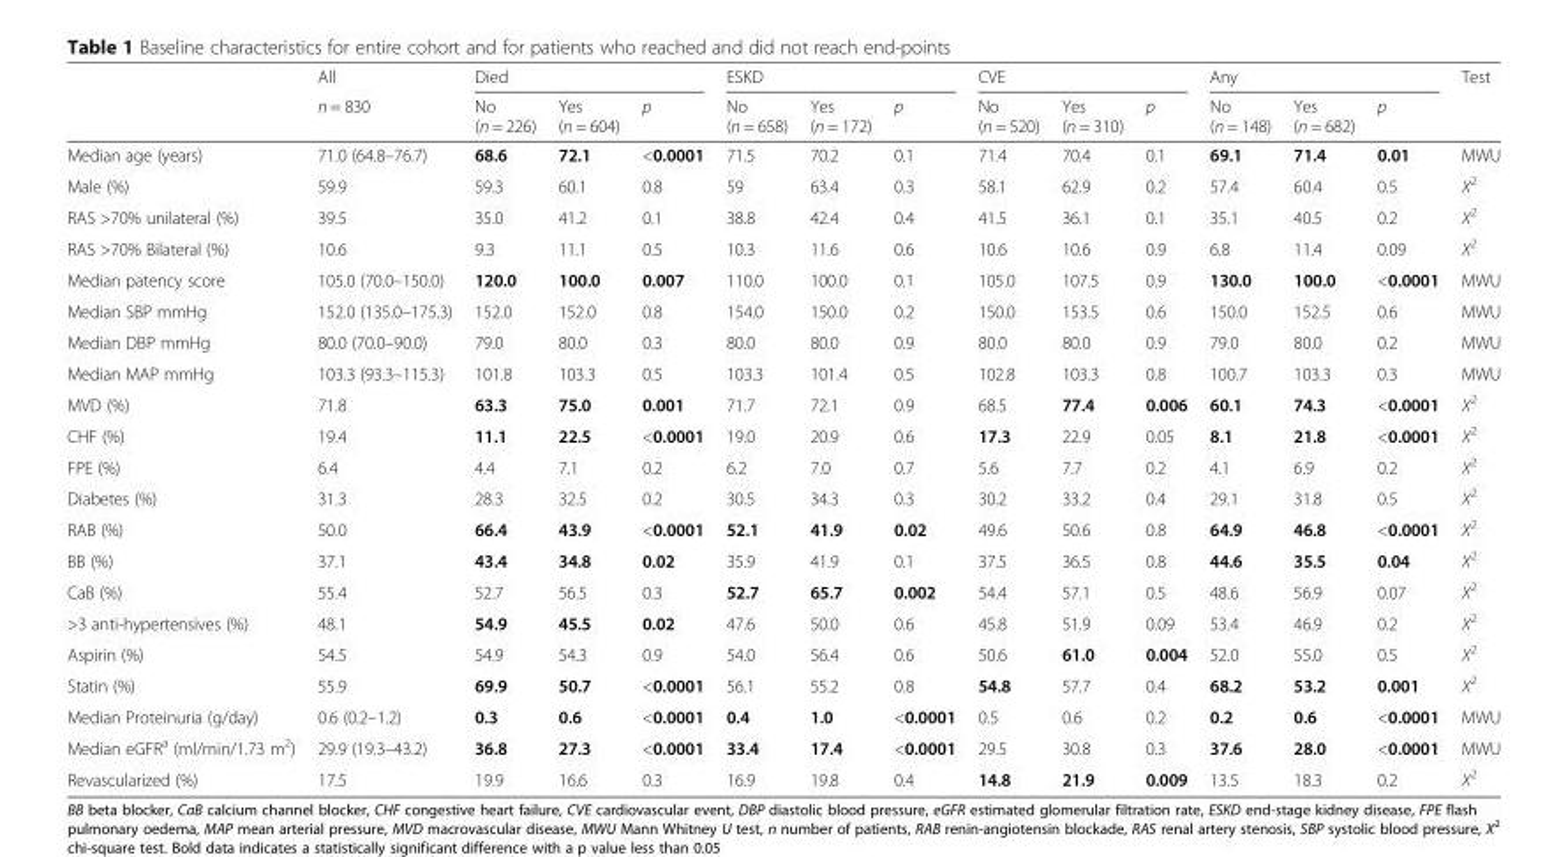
<table><thead><tr><td rowspan="2"></td><td rowspan="2">All n = 830</td><td colspan="3">Died</td><td colspan="3">ESKD</td><td colspan="3">CVE</td><td colspan="3">Any</td><td rowspan="2">Test</td></tr><tr><td>No (n = 226)</td><td>Yes (n = 604)</td><td>p</td><td>No (n = 658)</td><td>Yes (n = 172)</td><td>p</td><td>No (n = 520)</td><td>Yes (n = 310)</td><td>p</td><td>No (n = 148)</td><td>Yes (n = 682)</td><td>p</td></tr></thead><tbody><tr><td>Median age (years)</td><td>71.0 (64.8–76.7)</td><td>68.6</td><td>72.1</td><td>&lt;0.0001</td><td>71.5</td><td>70.2</td><td>0.1</td><td>71.4</td><td>70.4</td><td>0.1</td><td>69.1</td><td>71.4</td><td>0.01</td><td>MWU</td></tr><tr><td>Male (%)</td><td>59.9</td><td>59.3</td><td>60.1</td><td>0.8</td><td>59</td><td>63.4</td><td>0.3</td><td>58.1</td><td>62.9</td><td>0.2</td><td>57.4</td><td>60.4</td><td>0.5</td><td>X<sup>2</sup></td></tr><tr><td>RAS &gt;70% unilateral (%)</td><td>39.5</td><td>35.0</td><td>41.2</td><td>0.1</td><td>38.8</td><td>42.4</td><td>0.4</td><td>41.5</td><td>36.1</td><td>0.1</td><td>35.1</td><td>40.5</td><td>0.2</td><td>X<sup>2</sup></td></tr><tr><td>RAS &gt;70% Bilateral (%)</td><td>10.6</td><td>9.3</td><td>11.1</td><td>0.5</td><td>10.3</td><td>11.6</td><td>0.6</td><td>10.6</td><td>10.6</td><td>0.9</td><td>6.8</td><td>11.4</td><td>0.09</td><td>X<sup>2</sup></td></tr><tr><td>Median patency score</td><td>105.0 (70.0–150.0)</td><td>120.0</td><td>100.0</td><td>0.007</td><td>110.0</td><td>100.0</td><td>0.1</td><td>105.0</td><td>107.5</td><td>0.9</td><td>130.0</td><td>100.0</td><td>&lt;0.0001</td><td>MWU</td></tr><tr><td>Median SBP mmHg</td><td>152.0 (135.0–175.3)</td><td>152.0</td><td>152.0</td><td>0.8</td><td>154.0</td><td>150.0</td><td>0.2</td><td>150.0</td><td>153.5</td><td>0.6</td><td>150.0</td><td>152.5</td><td>0.6</td><td>MWU</td></tr><tr><td>Median DBP mmHg</td><td>80.0 (70.0–90.0)</td><td>79.0</td><td>80.0</td><td>0.3</td><td>80.0</td><td>80.0</td><td>0.9</td><td>80.0</td><td>80.0</td><td>0.9</td><td>79.0</td><td>80.0</td><td>0.2</td><td>MWU</td></tr><tr><td>Median MAP mmHg</td><td>103.3 (93.3–115.3)</td><td>101.8</td><td>103.3</td><td>0.5</td><td>103.3</td><td>101.4</td><td>0.5</td><td>102.8</td><td>103.3</td><td>0.8</td><td>100.7</td><td>103.3</td><td>0.3</td><td>MWU</td></tr><tr><td>MVD (%)</td><td>71.8</td><td>63.3</td><td>75.0</td><td>0.001</td><td>71.7</td><td>72.1</td><td>0.9</td><td>68.5</td><td>77.4</td><td>0.006</td><td>60.1</td><td>74.3</td><td>&lt;0.0001</td><td>X<sup>2</sup></td></tr><tr><td>CHF (%)</td><td>19.4</td><td>11.1</td><td>22.5</td><td>&lt;0.0001</td><td>19.0</td><td>20.9</td><td>0.6</td><td>17.3</td><td>22.9</td><td>0.05</td><td>8.1</td><td>21.8</td><td>&lt;0.0001</td><td>X<sup>2</sup></td></tr><tr><td>FPE (%)</td><td>6.4</td><td>4.4</td><td>7.1</td><td>0.2</td><td>6.2</td><td>7.0</td><td>0.7</td><td>5.6</td><td>7.7</td><td>0.2</td><td>4.1</td><td>6.9</td><td>0.2</td><td>X<sup>2</sup></td></tr><tr><td>Diabetes (%)</td><td>31.3</td><td>28.3</td><td>32.5</td><td>0.2</td><td>30.5</td><td>34.3</td><td>0.3</td><td>30.2</td><td>33.2</td><td>0.4</td><td>29.1</td><td>31.8</td><td>0.5</td><td>X<sup>2</sup></td></tr><tr><td>RAB (%)</td><td>50.0</td><td>66.4</td><td>43.9</td><td>&lt;0.0001</td><td>52.1</td><td>41.9</td><td>0.02</td><td>49.6</td><td>50.6</td><td>0.8</td><td>64.9</td><td>46.8</td><td>&lt;0.0001</td><td>X<sup>2</sup></td></tr><tr><td>BB (%)</td><td>37.1</td><td>43.4</td><td>34.8</td><td>0.02</td><td>35.9</td><td>41.9</td><td>0.1</td><td>37.5</td><td>36.5</td><td>0.8</td><td>44.6</td><td>35.5</td><td>0.04</td><td>X<sup>2</sup></td></tr><tr><td>CaB (%)</td><td>55.4</td><td>52.7</td><td>56.5</td><td>0.3</td><td>52.7</td><td>65.7</td><td>0.002</td><td>54.4</td><td>57.1</td><td>0.5</td><td>48.6</td><td>56.9</td><td>0.07</td><td>X<sup>2</sup></td></tr><tr><td>&gt;3 anti-hypertensives (%)</td><td>48.1</td><td>54.9</td><td>45.5</td><td>0.02</td><td>47.6</td><td>50.0</td><td>0.6</td><td>45.8</td><td>51.9</td><td>0.09</td><td>53.4</td><td>46.9</td><td>0.2</td><td>X<sup>2</sup></td></tr><tr><td>Aspirin (%)</td><td>54.5</td><td>54.9</td><td>54.3</td><td>0.9</td><td>54.0</td><td>56.4</td><td>0.6</td><td>50.6</td><td>61.0</td><td>0.004</td><td>52.0</td><td>55.0</td><td>0.5</td><td>X<sup>2</sup></td></tr><tr><td>Statin (%)</td><td>55.9</td><td>69.9</td><td>50.7</td><td>&lt;0.0001</td><td>56.1</td><td>55.2</td><td>0.8</td><td>54.8</td><td>57.7</td><td>0.4</td><td>68.2</td><td>53.2</td><td>0.001</td><td>X<sup>2</sup></td></tr><tr><td>Median Proteinuria (g/day)</td><td>0.6 (0.2–1.2)</td><td>0.3</td><td>0.6</td><td>&lt;0.0001</td><td>0.4</td><td>1.0</td><td>&lt;0.0001</td><td>0.5</td><td>0.6</td><td>0.2</td><td>0.2</td><td>0.6</td><td>&lt;0.0001</td><td>MWU</td></tr><tr><td>Median eGFR<sup>a</sup> (ml/min/1.73 m<sup>2</sup>)</td><td>29.9 (19.3–43.2)</td><td>36.8</td><td>27.3</td><td>&lt;0.0001</td><td>33.4</td><td>17.4</td><td>&lt;0.0001</td><td>29.5</td><td>30.8</td><td>0.3</td><td>37.6</td><td>28.0</td><td>&lt;0.0001</td><td>MWU</td></tr><tr><td>Revascularized (%)</td><td>17.5</td><td>19.9</td><td>16.6</td><td>0.3</td><td>16.9</td><td>19.8</td><td>0.4</td><td>14.8</td><td>21.9</td><td>0.009</td><td>13.5</td><td>18.3</td><td>0.2</td><td>X<sup>2</sup></td></tr></tbody></table>